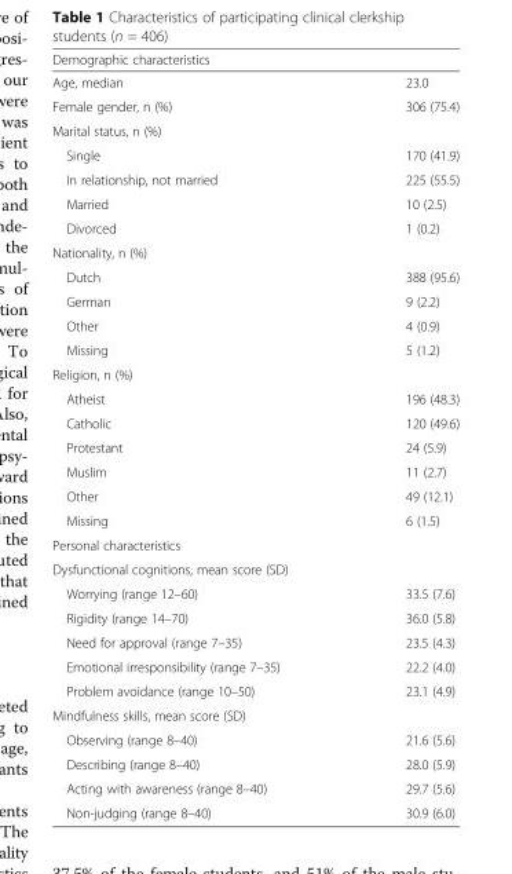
<table><thead><tr><td colspan="2">Demographic characteristics</td></tr><tr><td>Age, median</td><td>23.0</td></tr></thead><tbody><tr><td>Female gender, n (%)</td><td>306 (75.4)</td></tr><tr><td colspan="2">Marital status, n (%)</td></tr><tr><td>Single</td><td>170 (41.9)</td></tr><tr><td>In relationship, not married</td><td>225 (55.5)</td></tr><tr><td>Married</td><td>10 (2.5)</td></tr><tr><td>Divorced</td><td>1 (0.2)</td></tr><tr><td colspan="2">Nationality, n (%)</td></tr><tr><td>Dutch</td><td>388 (95.6)</td></tr><tr><td>German</td><td>9 (2.2)</td></tr><tr><td>Other</td><td>4 (0.9)</td></tr><tr><td>Missing</td><td>5 (1.2)</td></tr><tr><td colspan="2">Religion, n (%)</td></tr><tr><td>Atheist</td><td>196 (48.3)</td></tr><tr><td>Catholic</td><td>120 (49.6)</td></tr><tr><td>Protestant</td><td>24 (5.9)</td></tr><tr><td>Muslim</td><td>11 (2.7)</td></tr><tr><td>Other</td><td>49 (12.1)</td></tr><tr><td>Missing</td><td>6 (1.5)</td></tr><tr><td colspan="2">Personal characteristics</td></tr><tr><td colspan="2">Dysfunctional cognitions, mean score (SD)</td></tr><tr><td>Worrying (range 12–60)</td><td>33.5 (7.6)</td></tr><tr><td>Rigidity (range 14–70)</td><td>36.0 (5.8)</td></tr><tr><td>Need for approval (range 7–35)</td><td>23.5 (4.3)</td></tr><tr><td>Emotional irresponsibility (range 7–35)</td><td>22.2 (4.0)</td></tr><tr><td>Problem avoidance (range 10–50)</td><td>23.1 (4.9)</td></tr><tr><td colspan="2">Mindfulness skills, mean score (SD)</td></tr><tr><td>Observing (range 8–40)</td><td>21.6 (5.6)</td></tr><tr><td>Describing (range 8–40)</td><td>28.0 (5.9)</td></tr><tr><td>Acting with awareness (range 8–40)</td><td>29.7 (5.6)</td></tr><tr><td>Non-judging (range 8–40)</td><td>30.9 (6.0)</td></tr></tbody></table>